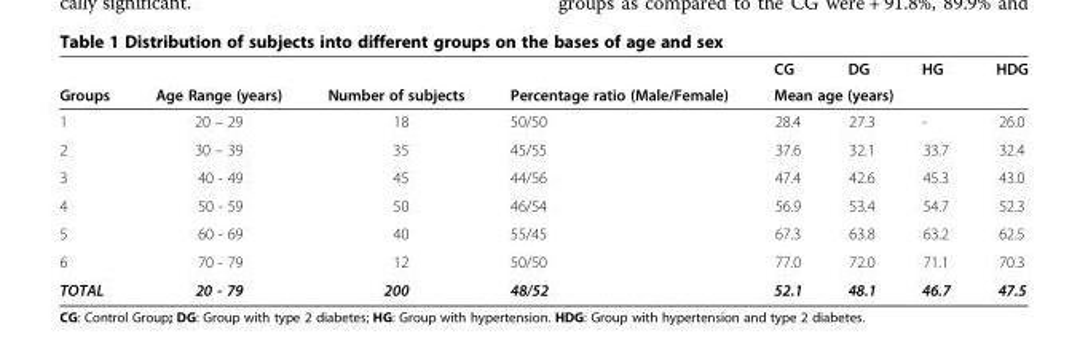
<table><thead><tr><td rowspan="2">Groups</td><td rowspan="2">Age Range (years)</td><td rowspan="2">Number of subjects</td><td rowspan="2">Percentage ratio (Male/Female)</td><td>CG</td><td>DG</td><td>HG</td><td>HDG</td></tr><tr><td colspan="4">Mean age (years)</td></tr></thead><tbody><tr><td>1</td><td>20 – 29</td><td>18</td><td>50/50</td><td>28.4</td><td>27.3</td><td>-</td><td>26.0</td></tr><tr><td>2</td><td>30 – 39</td><td>35</td><td>45/55</td><td>37.6</td><td>32.1</td><td>33.7</td><td>32.4</td></tr><tr><td>3</td><td>40 - 49</td><td>45</td><td>44/56</td><td>47.4</td><td>42.6</td><td>45.3</td><td>43.0</td></tr><tr><td>4</td><td>50 - 59</td><td>50</td><td>46/54</td><td>56.9</td><td>53.4</td><td>54.7</td><td>52.3</td></tr><tr><td>5</td><td>60 - 69</td><td>40</td><td>55/45</td><td>67.3</td><td>63.8</td><td>63.2</td><td>62.5</td></tr><tr><td>6</td><td>70 - 79</td><td>12</td><td>50/50</td><td>77.0</td><td>72.0</td><td>71.1</td><td>70.3</td></tr><tr><td>TOTAL</td><td>20 - 79</td><td>200</td><td>48/52</td><td>52.1</td><td>48.1</td><td>46.7</td><td>47.5</td></tr></tbody></table>